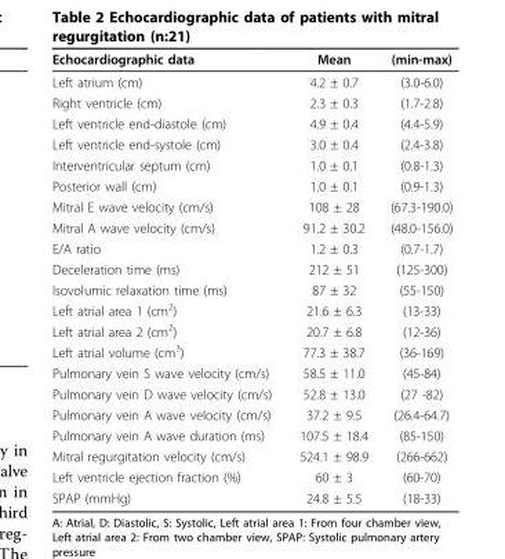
<table><thead><tr><td>Echocardiographic data</td><td>Mean</td><td>(min-max)</td></tr></thead><tbody><tr><td>Left atrium (cm)</td><td>4.2 ± 0.7</td><td>(3.0-6.0)</td></tr><tr><td>Right ventricle (cm)</td><td>2.3 ± 0.3</td><td>(1.7-2.8)</td></tr><tr><td>Left ventricle end-diastole (cm)</td><td>4.9 ± 0.4</td><td>(4.4-5.9)</td></tr><tr><td>Left ventricle end-systole (cm)</td><td>3.0 ± 0.4</td><td>(2.4-3.8)</td></tr><tr><td>Interventricular septum (cm)</td><td>1.0 ± 0.1</td><td>(0.8-1.3)</td></tr><tr><td>Posterior wall (cm)</td><td>1.0 ± 0.1</td><td>(0.9-1.3)</td></tr><tr><td>Mitral E wave velocity (cm/s)</td><td>108 ± 28</td><td>(67.3-190.0)</td></tr><tr><td>Mitral A wave velocity (cm/s)</td><td>91.2 ± 30.2</td><td>(48.0-156.0)</td></tr><tr><td>E/A ratio</td><td>1.2 ± 0.3</td><td>(0.7-1.7)</td></tr><tr><td>Deceleration time (ms)</td><td>212 ± 51</td><td>(125-300)</td></tr><tr><td>Isovolumic relaxation time (ms)</td><td>87 ± 32</td><td>(55-150)</td></tr><tr><td>Left atrial area 1 (cm<sup>2</sup>)</td><td>21.6 ± 6.3</td><td>(13-33)</td></tr><tr><td>Left atrial area 2 (cm<sup>2</sup>)</td><td>20.7 ± 6.8</td><td>(12-36)</td></tr><tr><td>Left atrial volume (cm<sup>3</sup>)</td><td>77.3 ± 38.7</td><td>(36-169)</td></tr><tr><td>Pulmonary vein S wave velocity (cm/s)</td><td>58.5 ± 11.0</td><td>(45-84)</td></tr><tr><td>Pulmonary vein D wave velocity (cm/s)</td><td>52.8 ± 13.0</td><td>(27 -82)</td></tr><tr><td>Pulmonary vein A wave velocity (cm/s)</td><td>37.2 ± 9.5</td><td>(26.4-64.7)</td></tr><tr><td>Pulmonary vein A wave duration (ms)</td><td>107.5 ± 18.4</td><td>(85-150)</td></tr><tr><td>Mitral regurgitation velocity (cm/s)</td><td>524.1 ± 98.9</td><td>(266-662)</td></tr><tr><td>Left ventricle ejection fraction (%)</td><td>60 ± 3</td><td>(60-70)</td></tr><tr><td>SPAP (mmHg)</td><td>24.8 ± 5.5</td><td>(18-33)</td></tr></tbody></table>